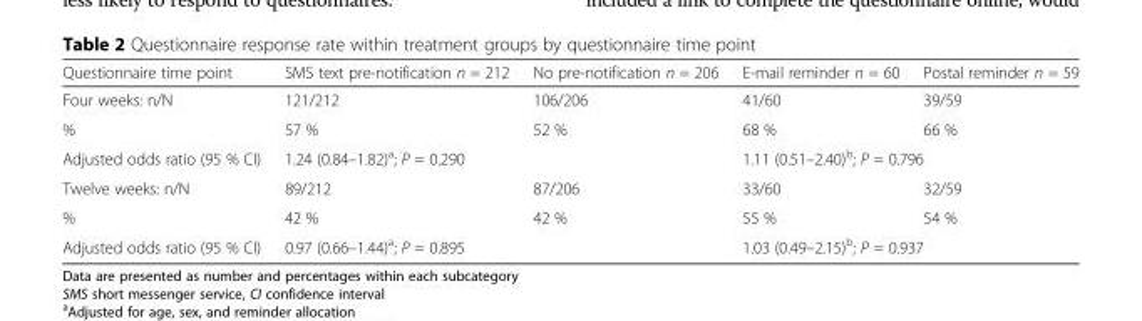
<table><thead><tr><td>Questionnaire time point</td><td>SMS text pre-notification n = 212</td><td>No pre-notification n = 206</td><td>E-mail reminder n = 60</td><td>Postal reminder n = 59</td></tr></thead><tbody><tr><td>Four weeks: n/N</td><td>121/212</td><td>106/206</td><td>41/60</td><td>39/59</td></tr><tr><td>%</td><td>57 %</td><td>52 %</td><td>68 %</td><td>66 %</td></tr><tr><td>Adjusted odds ratio (95 % CI)</td><td colspan="2">1.24 (0.84–1.82)<sup>a</sup>; P = 0.290</td><td colspan="2">1.11 (0.51–2.40)<sup>b</sup>; P = 0.796</td></tr><tr><td>Twelve weeks: n/N</td><td>89/212</td><td>87/206</td><td>33/60</td><td>32/59</td></tr><tr><td>%</td><td>42 %</td><td>42 %</td><td>55 %</td><td>54 %</td></tr><tr><td>Adjusted odds ratio (95 % CI)</td><td colspan="2">0.97 (0.66–1.44)<sup>a</sup>; P = 0.895</td><td colspan="2">1.03 (0.49–2.15)<sup>b</sup>; P = 0.937</td></tr></tbody></table>